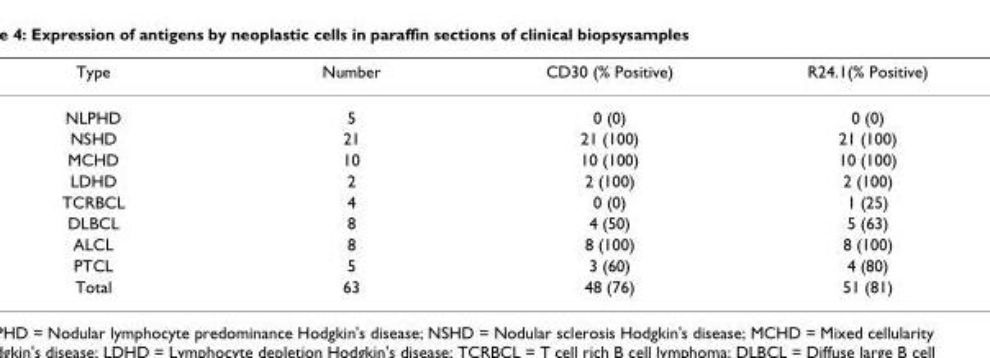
<table><thead><tr><td>Type</td><td>Number</td><td>CD30 (% Positive)</td><td>R24.1(% Positive)</td></tr></thead><tbody><tr><td>NLPHD</td><td>5</td><td>0 (0)</td><td>0 (0)</td></tr><tr><td>NSHD</td><td>21</td><td>21 (100)</td><td>21 (100)</td></tr><tr><td>MCHD</td><td>10</td><td>10 (100)</td><td>10 (100)</td></tr><tr><td>LDHD</td><td>2</td><td>2 (100)</td><td>2 (100)</td></tr><tr><td>TCRBCL</td><td>4</td><td>0 (0)</td><td>1 (25)</td></tr><tr><td>DLBCL</td><td>8</td><td>4 (50)</td><td>5 (63)</td></tr><tr><td>ALCL</td><td>8</td><td>8 (100)</td><td>8 (100)</td></tr><tr><td>PTCL</td><td>5</td><td>3 (60)</td><td>4 (80)</td></tr><tr><td>Total</td><td>63</td><td>48 (76)</td><td>51 (81)</td></tr></tbody></table>